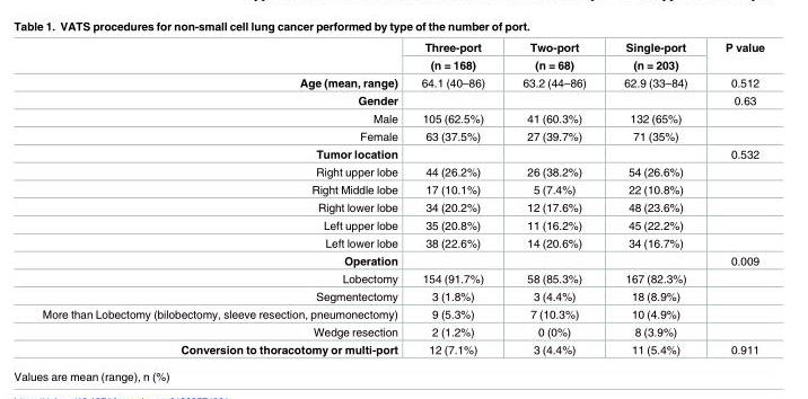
<table><thead><tr><td rowspan="2"></td><td rowspan="2">Three-port (n = 168)</td><td rowspan="2">Two-port (n = 68)</td><td rowspan="2">Single-port (n = 203)</td><td rowspan="2">P value</td></tr><tr></tr></thead><tbody><tr><td>Age (mean, range)</td><td>64.1 (40–86)</td><td>63.2 (44–86)</td><td>62.9 (33–84)</td><td>0.512</td></tr><tr><td>Gender</td><td></td><td></td><td></td><td>0.63</td></tr><tr><td>Male</td><td>105 (62.5%)</td><td>41 (60.3%)</td><td>132 (65%)</td><td></td></tr><tr><td>Female</td><td>63 (37.5%)</td><td>27 (39.7%)</td><td>71 (35%)</td><td></td></tr><tr><td>Tumor location</td><td></td><td></td><td></td><td>0.532</td></tr><tr><td>Right upper lobe</td><td>44 (26.2%)</td><td>26 (38.2%)</td><td>54 (26.6%)</td><td></td></tr><tr><td>Right Middle lobe</td><td>17 (10.1%)</td><td>5 (7.4%)</td><td>22 (10.8%)</td><td></td></tr><tr><td>Right lower lobe</td><td>34 (20.2%)</td><td>12 (17.6%)</td><td>48 (23.6%)</td><td></td></tr><tr><td>Left upper lobe</td><td>35 (20.8%)</td><td>11 (16.2%)</td><td>45 (22.2%)</td><td></td></tr><tr><td>Left lower lobe</td><td>38 (22.6%)</td><td>14 (20.6%)</td><td>34 (16.7%)</td><td></td></tr><tr><td>Operation</td><td></td><td></td><td></td><td>0.009</td></tr><tr><td>Lobectomy</td><td>154 (91.7%)</td><td>58 (85.3%)</td><td>167 (82.3%)</td><td></td></tr><tr><td>Segmentectomy</td><td>3 (1.8%)</td><td>3 (4.4%)</td><td>18 (8.9%)</td><td></td></tr><tr><td>More than Lobectomy (bilobectomy, sleeve resection, pneumonectomy)</td><td>9 (5.3%)</td><td>7 (10.3%)</td><td>10 (4.9%)</td><td></td></tr><tr><td>Wedge resection</td><td>2 (1.2%)</td><td>0 (0%)</td><td>8 (3.9%)</td><td></td></tr><tr><td>Conversion to thoracotomy or multi-port</td><td>12 (7.1%)</td><td>3 (4.4%)</td><td>11 (5.4%)</td><td>0.911</td></tr></tbody></table>